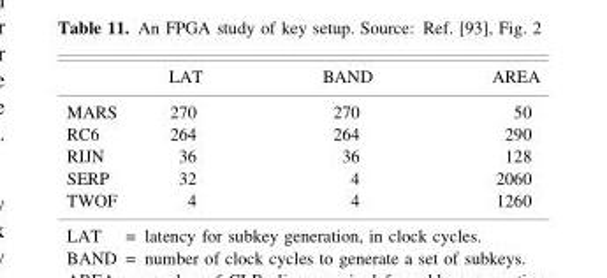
<table><thead><tr><td></td><td>LAT</td><td>BAND</td><td>AREA</td></tr></thead><tbody><tr><td>MARS</td><td>270</td><td>270</td><td>50</td></tr><tr><td>RC6</td><td>264</td><td>264</td><td>290</td></tr><tr><td>RIJN</td><td>36</td><td>36</td><td>128</td></tr><tr><td>SERP</td><td>32</td><td>4</td><td>2060</td></tr><tr><td>TWOF</td><td>4</td><td>4</td><td>1260</td></tr></tbody></table>